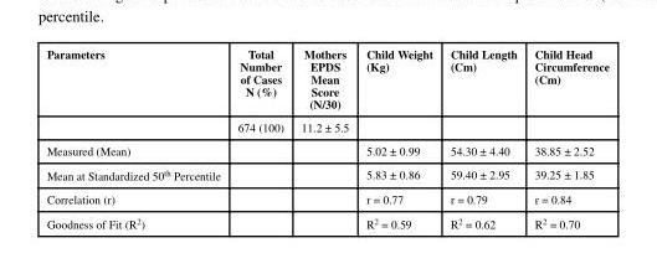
<table><thead><tr><td>Parameters</td><td>Total Number of Cases N (%)</td><td>Mothers EPDS Mean Score (N/30)</td><td>Child Weight (Kg)</td><td>Child Length (Cm)</td><td>Child Head Circumference (Cm)</td></tr></thead><tbody><tr><td></td><td>674 (100)</td><td>11.2 ± 5.5</td><td></td><td></td><td></td></tr><tr><td>Measured (Mean)</td><td></td><td></td><td>5.02 ± 0.99</td><td>54.30 ± 4.40</td><td>38.85 ± 2.52</td></tr><tr><td>Mean at Standardized 50<sup>th</sup> Percentile</td><td></td><td></td><td>5.83 ± 0.86</td><td>59.40 ± 2.95</td><td>39.25 ± 1.85</td></tr><tr><td>Correlation (r)</td><td></td><td></td><td>r = 0.77</td><td>r = 0.79</td><td>r = 0.84</td></tr><tr><td>Goodness of Fit (R<sup>2</sup>)</td><td></td><td></td><td>R<sup>2</sup> = 0.59</td><td>R<sup>2</sup> = 0.62</td><td>R<sup>2</sup> = 0.70</td></tr></tbody></table>